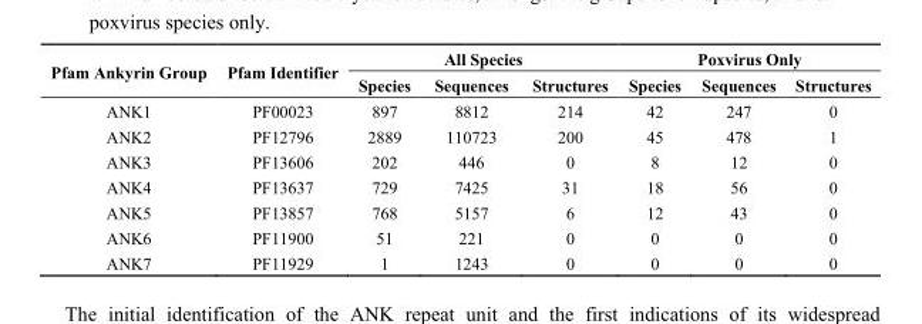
<table><thead><tr><td rowspan="2">Pfam Ankyrin Group</td><td rowspan="2">Pfam Identifier</td><td colspan="3">All Species</td><td colspan="3">Poxvirus Only</td></tr><tr><td>Species</td><td>Sequences</td><td>Structures</td><td>Species</td><td>Sequences</td><td>Structures</td></tr></thead><tbody><tr><td>ANK1</td><td>PF00023</td><td>897</td><td>8812</td><td>214</td><td>42</td><td>247</td><td>0</td></tr><tr><td>ANK2</td><td>PF12796</td><td>2889</td><td>110723</td><td>200</td><td>45</td><td>478</td><td>1</td></tr><tr><td>ANK3</td><td>PF13606</td><td>202</td><td>446</td><td>0</td><td>8</td><td>12</td><td>0</td></tr><tr><td>ANK4</td><td>PF13637</td><td>729</td><td>7425</td><td>31</td><td>18</td><td>56</td><td>0</td></tr><tr><td>ANK5</td><td>PF13857</td><td>768</td><td>5157</td><td>6</td><td>12</td><td>43</td><td>0</td></tr><tr><td>ANK6</td><td>PF11900</td><td>51</td><td>221</td><td>0</td><td>0</td><td>0</td><td>0</td></tr><tr><td>ANK7</td><td>PF11929</td><td>1</td><td>1243</td><td>0</td><td>0</td><td>0</td><td>0</td></tr></tbody></table>